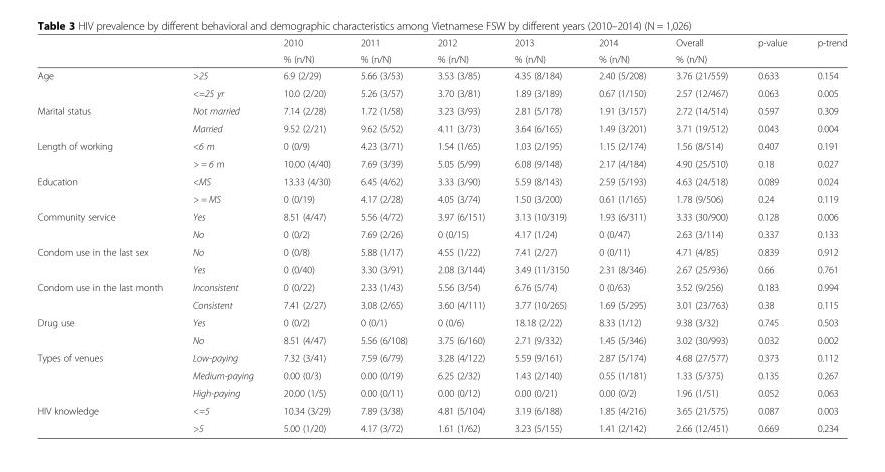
<table><thead><tr><td rowspan="2"></td><td rowspan="2"></td><td rowspan="2">2010 % (n/N)</td><td rowspan="2">2011 % (n/N)</td><td rowspan="2">2012 % (n/N)</td><td rowspan="2">2013 % (n/N)</td><td rowspan="2">2014 % (n/N)</td><td rowspan="2">Overall % (n/N)</td><td rowspan="2">p-value</td><td rowspan="2">p-trend</td></tr><tr></tr></thead><tbody><tr><td rowspan="2">Age</td><td>&gt;25</td><td>6.9 (2/29)</td><td>5.66 (3/53)</td><td>3.53 (3/85)</td><td>4.35 (8/184)</td><td>2.40 (5/208)</td><td>3.76 (21/559)</td><td>0.633</td><td>0.154</td></tr><tr><td>&lt;=25 yr</td><td>10.0 (2/20)</td><td>5.26 (3/57)</td><td>3.70 (3/81)</td><td>1.89 (3/189)</td><td>0.67 (1/150)</td><td>2.57 (12/467)</td><td>0.063</td><td>0.005</td></tr><tr><td rowspan="2">Marital status</td><td>Not married</td><td>7.14 (2/28)</td><td>1.72 (1/58)</td><td>3.23 (3/93)</td><td>2.81 (5/178)</td><td>1.91 (3/157)</td><td>2.72 (14/514)</td><td>0.597</td><td>0.309</td></tr><tr><td>Married</td><td>9.52 (2/21)</td><td>9.62 (5/52)</td><td>4.11 (3/73)</td><td>3.64 (6/165)</td><td>1.49 (3/201)</td><td>3.71 (19/512)</td><td>0.043</td><td>0.004</td></tr><tr><td rowspan="2">Length of working</td><td>&lt;6 m</td><td>0 (0/9)</td><td>4.23 (3/71)</td><td>1.54 (1/65)</td><td>1.03 (2/195)</td><td>1.15 (2/174)</td><td>1.56 (8/514)</td><td>0.407</td><td>0.191</td></tr><tr><td>&gt; = 6 m</td><td>10.00 (4/40)</td><td>7.69 (3/39)</td><td>5.05 (5/99)</td><td>6.08 (9/148)</td><td>2.17 (4/184)</td><td>4.90 (25/510)</td><td>0.18</td><td>0.027</td></tr><tr><td rowspan="2">Education</td><td>&lt;MS</td><td>13.33 (4/30)</td><td>6.45 (4/62)</td><td>3.33 (3/90)</td><td>5.59 (8/143)</td><td>2.59 (5/193)</td><td>4.63 (24/518)</td><td>0.089</td><td>0.024</td></tr><tr><td>&gt; = MS</td><td>0 (0/19)</td><td>4.17 (2/28)</td><td>4.05 (3/74)</td><td>1.50 (3/200)</td><td>0.61 (1/165)</td><td>1.78 (9/506)</td><td>0.24</td><td>0.119</td></tr><tr><td rowspan="2">Community service</td><td>Yes</td><td>8.51 (4/47)</td><td>5.56 (4/72)</td><td>3.97 (6/151)</td><td>3.13 (10/319)</td><td>1.93 (6/311)</td><td>3.33 (30/900)</td><td>0.128</td><td>0.006</td></tr><tr><td>No</td><td>0 (0/2)</td><td>7.69 (2/26)</td><td>0 (0/15)</td><td>4.17 (1/24)</td><td>0 (0/47)</td><td>2.63 (3/114)</td><td>0.337</td><td>0.133</td></tr><tr><td rowspan="2">Condom use in the last sex</td><td>No</td><td>0 (0/8)</td><td>5.88 (1/17)</td><td>4.55 (1/22)</td><td>7.41 (2/27)</td><td>0 (0/11)</td><td>4.71 (4/85)</td><td>0.839</td><td>0.912</td></tr><tr><td>Yes</td><td>0 (0/40)</td><td>3.30 (3/91)</td><td>2.08 (3/144)</td><td>3.49 (11/3150</td><td>2.31 (8/346)</td><td>2.67 (25/936)</td><td>0.66</td><td>0.761</td></tr><tr><td rowspan="2">Condom use in the last month</td><td>Inconsistent</td><td>0 (0/22)</td><td>2.33 (1/43)</td><td>5.56 (3/54)</td><td>6.76 (5/74)</td><td>0 (0/63)</td><td>3.52 (9/256)</td><td>0.183</td><td>0.994</td></tr><tr><td>Consistent</td><td>7.41 (2/27)</td><td>3.08 (2/65)</td><td>3.60 (4/111)</td><td>3.77 (10/265)</td><td>1.69 (5/295)</td><td>3.01 (23/763)</td><td>0.38</td><td>0.115</td></tr><tr><td rowspan="2">Drug use</td><td>Yes</td><td>0 (0/2)</td><td>0 (0/1)</td><td>0 (0/6)</td><td>18.18 (2/22)</td><td>8.33 (1/12)</td><td>9.38 (3/32)</td><td>0.745</td><td>0.503</td></tr><tr><td>No</td><td>8.51 (4/47)</td><td>5.56 (6/108)</td><td>3.75 (6/160)</td><td>2.71 (9/332)</td><td>1.45 (5/346)</td><td>3.02 (30/993)</td><td>0.032</td><td>0.002</td></tr><tr><td rowspan="3">Types of venues</td><td>Low-paying</td><td>7.32 (3/41)</td><td>7.59 (6/79)</td><td>3.28 (4/122)</td><td>5.59 (9/161)</td><td>2.87 (5/174)</td><td>4.68 (27/577)</td><td>0.373</td><td>0.112</td></tr><tr><td>Medium-paying</td><td>0.00 (0/3)</td><td>0.00 (0/19)</td><td>6.25 (2/32)</td><td>1.43 (2/140)</td><td>0.55 (1/181)</td><td>1.33 (5/375)</td><td>0.135</td><td>0.267</td></tr><tr><td>High-paying</td><td>20.00 (1/5)</td><td>0.00 (0/11)</td><td>0.00 (0/12)</td><td>0.00 (0/21)</td><td>0.00 (0/2)</td><td>1.96 (1/51)</td><td>0.052</td><td>0.063</td></tr><tr><td rowspan="2">HIV knowledge</td><td>&lt;=5</td><td>10.34 (3/29)</td><td>7.89 (3/38)</td><td>4.81 (5/104)</td><td>3.19 (6/188)</td><td>1.85 (4/216)</td><td>3.65 (21/575)</td><td>0.087</td><td>0.003</td></tr><tr><td>&gt;5</td><td>5.00 (1/20)</td><td>4.17 (3/72)</td><td>1.61 (1/62)</td><td>3.23 (5/155)</td><td>1.41 (2/142)</td><td>2.66 (12/451)</td><td>0.669</td><td>0.234</td></tr></tbody></table>